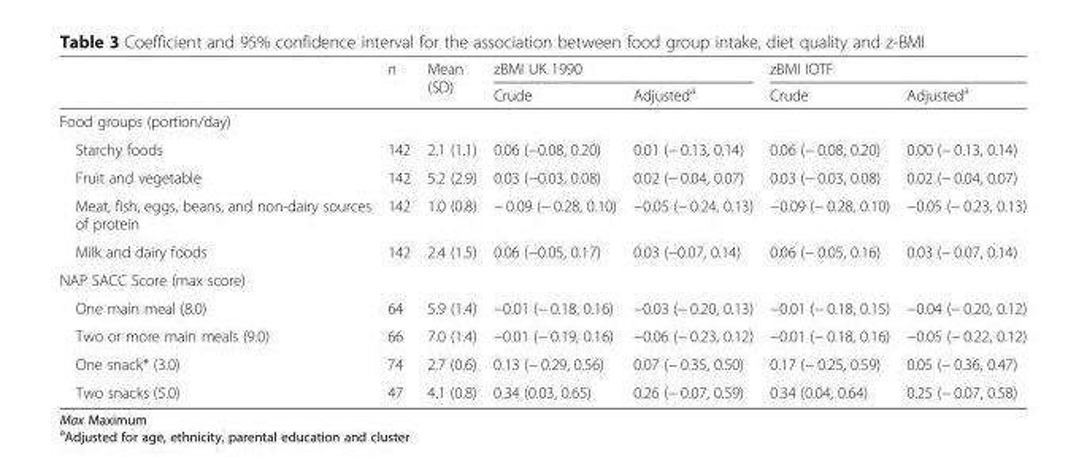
<table><thead><tr><td rowspan="2"></td><td rowspan="2">n</td><td rowspan="2">Mean (SD)</td><td colspan="2">zBMI UK 1990</td><td colspan="2">zBMI IOTF</td></tr><tr><td>Crude</td><td>Adjusted<sup>a</sup></td><td>Crude</td><td>Adjusted<sup>a</sup></td></tr></thead><tbody><tr><td colspan="7">Food groups (portion/day)</td></tr><tr><td>Starchy foods</td><td>142</td><td>2.1 (1.1)</td><td>0.06 (−0.08, 0.20)</td><td>0.01 (− 0.13, 0.14)</td><td>0.06 (− 0.08, 0.20)</td><td>0.00 (− 0.13, 0.14)</td></tr><tr><td>Fruit and vegetable</td><td>142</td><td>5.2 (2.9)</td><td>0.03 (−0.03, 0.08)</td><td>0.02 (− 0.04, 0.07)</td><td>0.03 (− 0.03, 0.08)</td><td>0.02 (− 0.04, 0.07)</td></tr><tr><td>Meat, fish, eggs, beans, and non-dairy sources of protein</td><td>142</td><td>1.0 (0.8)</td><td>− 0.09 (− 0.28, 0.10)</td><td>−0.05 (− 0.24, 0.13)</td><td>−0.09 (− 0.28, 0.10)</td><td>−0.05 (− 0.23, 0.13)</td></tr><tr><td>Milk and dairy foods</td><td>142</td><td>2.4 (1.5)</td><td>0.06 (−0.05, 0.17)</td><td>0.03 (−0.07, 0.14)</td><td>0.06 (− 0.05, 0.16)</td><td>0.03 (− 0.07, 0.14)</td></tr><tr><td colspan="7">NAP SACC Score (max score)</td></tr><tr><td>One main meal (8.0)</td><td>64</td><td>5.9 (1.4)</td><td>−0.01 (− 0.18, 0.16)</td><td>−0.03 (− 0.20, 0.13)</td><td>−0.01 (− 0.18, 0.15)</td><td>−0.04 (− 0.20, 0.12)</td></tr><tr><td>Two or more main meals (9.0)</td><td>66</td><td>7.0 (1.4)</td><td>−0.01 (− 0.19, 0.16)</td><td>−0.06 (− 0.23, 0.12)</td><td>−0.01 (− 0.18, 0.16)</td><td>−0.05 (− 0.22, 0.12)</td></tr><tr><td>One snack* (3.0)</td><td>74</td><td>2.7 (0.6)</td><td>0.13 (− 0.29, 0.56)</td><td>0.07 (− 0.35, 0.50)</td><td>0.17 (− 0.25, 0.59)</td><td>0.05 (− 0.36, 0.47)</td></tr><tr><td>Two snacks (5.0)</td><td>47</td><td>4.1 (0.8)</td><td>0.34 (0.03, 0.65)</td><td>0.26 (− 0.07, 0.59)</td><td>0.34 (0.04, 0.64)</td><td>0.25 (− 0.07, 0.58)</td></tr></tbody></table>